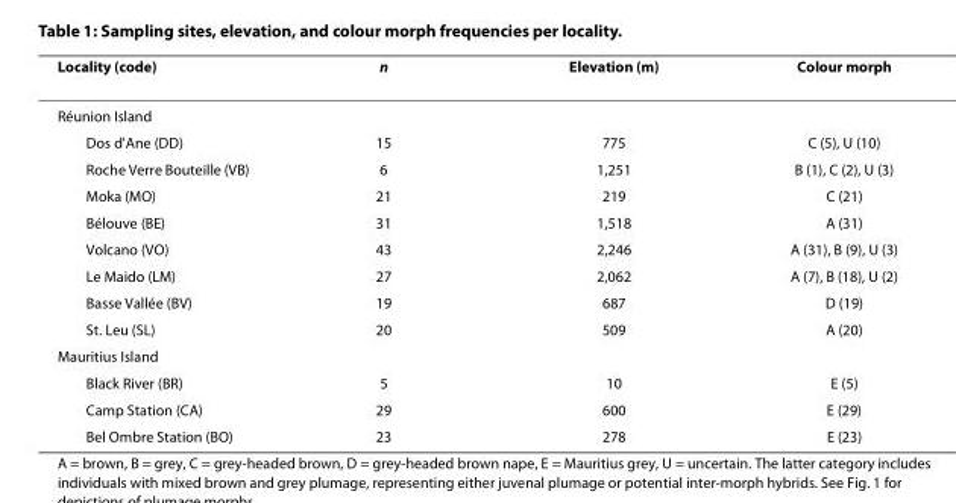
<table><thead><tr><td>Locality (code)</td><td>n</td><td>Elevation (m)</td><td>Colour morph</td></tr></thead><tbody><tr><td colspan="4">Réunion Island</td></tr><tr><td>Dos d&#x27;Ane (DD)</td><td>15</td><td>775</td><td>C (5), U (10)</td></tr><tr><td>Roche Verre Bouteille (VB)</td><td>6</td><td>1,251</td><td>B (1), C (2), U (3)</td></tr><tr><td>Moka (MO)</td><td>21</td><td>219</td><td>C (21)</td></tr><tr><td>Bélouve (BE)</td><td>31</td><td>1,518</td><td>A (31)</td></tr><tr><td>Volcano (VO)</td><td>43</td><td>2,246</td><td>A (31), B (9), U (3)</td></tr><tr><td>Le Maido (LM)</td><td>27</td><td>2,062</td><td>A (7), B (18), U (2)</td></tr><tr><td>Basse Vallée (BV)</td><td>19</td><td>687</td><td>D (19)</td></tr><tr><td>St. Leu (SL)</td><td>20</td><td>509</td><td>A (20)</td></tr><tr><td colspan="4">Mauritius Island</td></tr><tr><td>Black River (BR)</td><td>5</td><td>10</td><td>E (5)</td></tr><tr><td>Camp Station (CA)</td><td>29</td><td>600</td><td>E (29)</td></tr><tr><td>Bel Ombre Station (BO)</td><td>23</td><td>278</td><td>E (23)</td></tr></tbody></table>